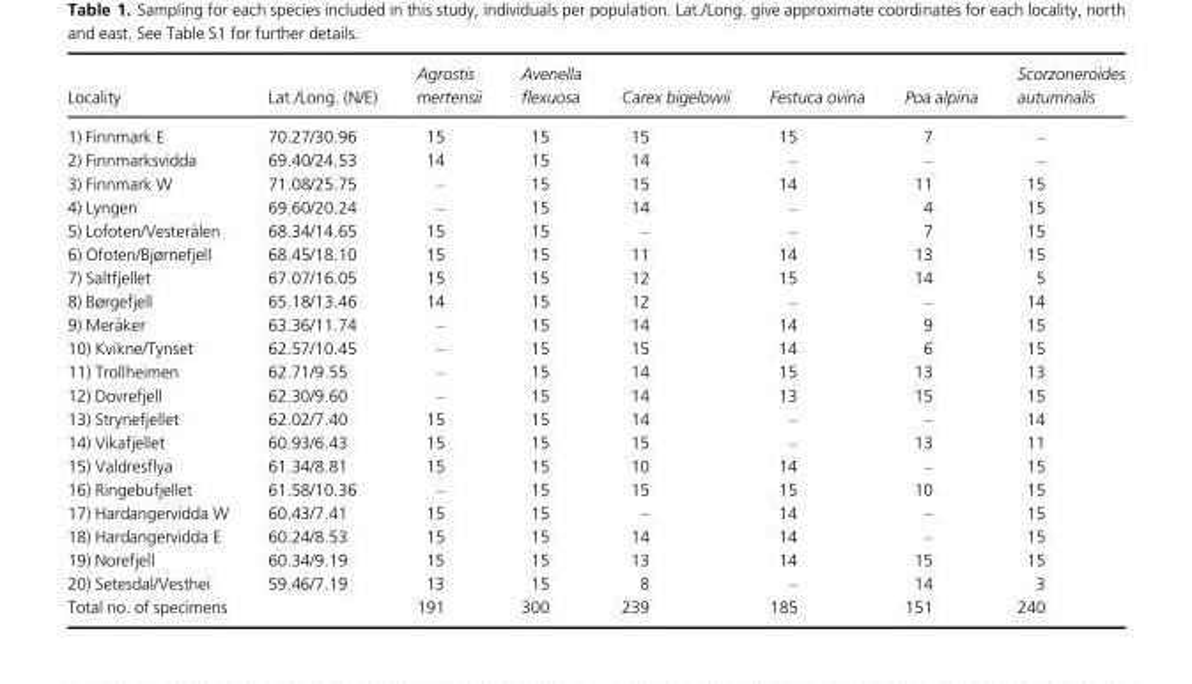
<table><thead><tr><td>Locality</td><td>Lat./Long. (N/E)</td><td>Agrostis mertensii</td><td>Avenella flexuosa</td><td>Carex bigelowii</td><td>Festuca ovina</td><td>Poa alpina</td><td>Scorzoneroides autumnalis</td></tr></thead><tbody><tr><td>1) Finnmark E</td><td>70.27/30.96</td><td>15</td><td>15</td><td>15</td><td>15</td><td>7</td><td>–</td></tr><tr><td>2) Finnmarksvidda</td><td>69.40/24.53</td><td>14</td><td>15</td><td>14</td><td>–</td><td>–</td><td>–</td></tr><tr><td>3) Finnmark W</td><td>71.08/25.75</td><td>–</td><td>15</td><td>15</td><td>14</td><td>11</td><td>15</td></tr><tr><td>4) Lyngen</td><td>69.60/20.24</td><td>–</td><td>15</td><td>14</td><td>–</td><td>4</td><td>15</td></tr><tr><td>5) Lofoten/Vester�alen</td><td>68.34/14.65</td><td>15</td><td>15</td><td>–</td><td>–</td><td>7</td><td>15</td></tr><tr><td>6) Ofoten/Bjørnefjell</td><td>68.45/18.10</td><td>15</td><td>15</td><td>11</td><td>14</td><td>13</td><td>15</td></tr><tr><td>7) Saltfjellet</td><td>67.07/16.05</td><td>15</td><td>15</td><td>12</td><td>15</td><td>14</td><td>5</td></tr><tr><td>8) Børgefjell</td><td>65.18/13.46</td><td>14</td><td>15</td><td>12</td><td>–</td><td>–</td><td>14</td></tr><tr><td>9) Mer�aker</td><td>63.36/11.74</td><td>–</td><td>15</td><td>14</td><td>14</td><td>9</td><td>15</td></tr><tr><td>10) Kvikne/Tynset</td><td>62.57/10.45</td><td>–</td><td>15</td><td>15</td><td>14</td><td>6</td><td>15</td></tr><tr><td>11) Trollheimen</td><td>62.71/9.55</td><td>–</td><td>15</td><td>14</td><td>15</td><td>13</td><td>13</td></tr><tr><td>12) Dovrefjell</td><td>62.30/9.60</td><td>–</td><td>15</td><td>14</td><td>13</td><td>15</td><td>15</td></tr><tr><td>13) Strynefjellet</td><td>62.02/7.40</td><td>15</td><td>15</td><td>14</td><td>–</td><td>–</td><td>14</td></tr><tr><td>14) Vikafjellet</td><td>60.93/6.43</td><td>15</td><td>15</td><td>15</td><td>–</td><td>13</td><td>11</td></tr><tr><td>15) Valdresflya</td><td>61.34/8.81</td><td>15</td><td>15</td><td>10</td><td>14</td><td>–</td><td>15</td></tr><tr><td>16) Ringebufjellet</td><td>61.58/10.36</td><td>–</td><td>15</td><td>15</td><td>15</td><td>10</td><td>15</td></tr><tr><td>17) Hardangervidda W</td><td>60.43/7.41</td><td>15</td><td>15</td><td>–</td><td>14</td><td>–</td><td>15</td></tr><tr><td>18) Hardangervidda E</td><td>60.24/8.53</td><td>15</td><td>15</td><td>14</td><td>14</td><td>–</td><td>15</td></tr><tr><td>19) Norefjell</td><td>60.34/9.19</td><td>15</td><td>15</td><td>13</td><td>14</td><td>15</td><td>15</td></tr><tr><td>20) Setesdal/Vesthei</td><td>59.46/7.19</td><td>13</td><td>15</td><td>8</td><td>–</td><td>14</td><td>3</td></tr><tr><td>Total no. of specimens</td><td></td><td>191</td><td>300</td><td>239</td><td>185</td><td>151</td><td>240</td></tr></tbody></table>